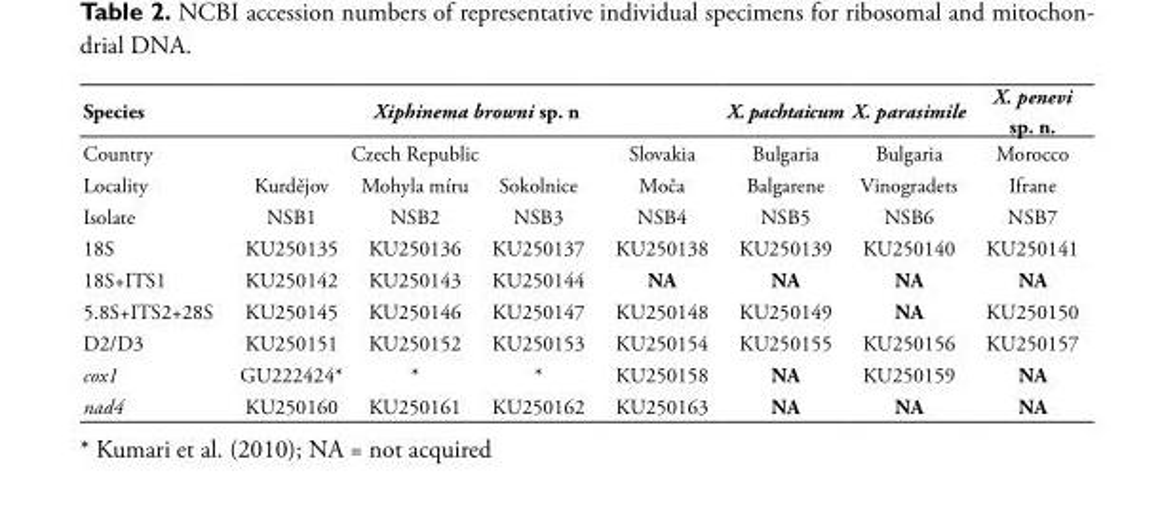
<table><thead><tr><td rowspan="3">Species Country Locality</td><td colspan="4">Xiphinema browni sp. n</td><td rowspan="3">X. pachtaicum Bulgaria Balgarene</td><td rowspan="3">X. parasimile Bulgaria Vinogradets</td><td rowspan="3">X. penevi sp. n. Morocco Ifrane</td></tr><tr><td colspan="3">Czech Republic</td><td rowspan="2">Slovakia Moča</td></tr><tr><td>Kurdějov</td><td>Mohyla míru</td><td>Sokolnice</td></tr></thead><tbody><tr><td>Isolate</td><td>NSB1</td><td>NSB2</td><td>NSB3</td><td>NSB4</td><td>NSB5</td><td>NSB6</td><td>NSB7</td></tr><tr><td>18S</td><td>KU250135</td><td>KU250136</td><td>KU250137</td><td>KU250138</td><td>KU250139</td><td>KU250140</td><td>KU250141</td></tr><tr><td>18S+ITS1</td><td>KU250142</td><td>KU250143</td><td>KU250144</td><td>NA</td><td>NA</td><td>NA</td><td>NA</td></tr><tr><td>5.8S+ITS2+28S</td><td>KU250145</td><td>KU250146</td><td>KU250147</td><td>KU250148</td><td>KU250149</td><td>NA</td><td>KU250150</td></tr><tr><td>D2/D3</td><td>KU250151</td><td>KU250152</td><td>KU250153</td><td>KU250154</td><td>KU250155</td><td>KU250156</td><td>KU250157</td></tr><tr><td>cox1</td><td>GU222424*</td><td>*</td><td>*</td><td>KU250158</td><td>NA</td><td>KU250159</td><td>NA</td></tr><tr><td>nad4</td><td>KU250160</td><td>KU250161</td><td>KU250162</td><td>KU250163</td><td>NA</td><td>NA</td><td>NA</td></tr></tbody></table>